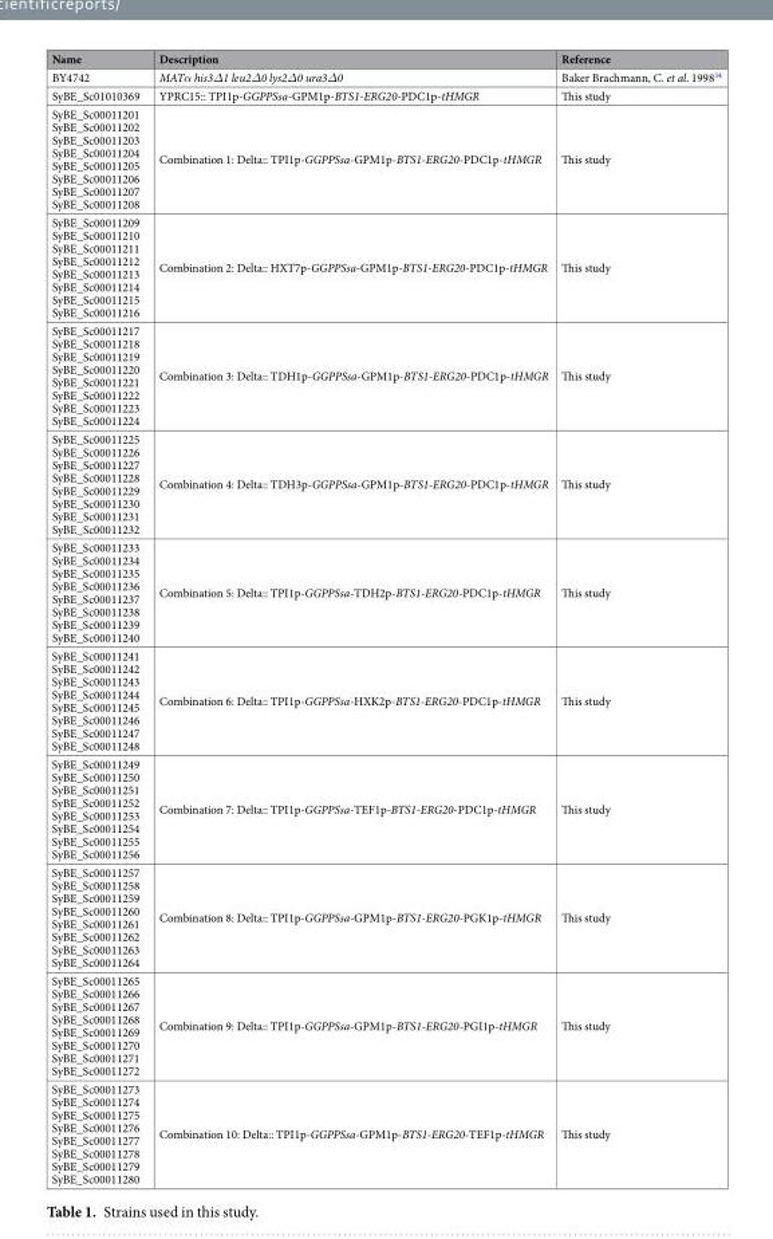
<table><thead><tr><td>Name</td><td>Description</td><td>Reference</td></tr></thead><tbody><tr><td>BY4742</td><td>MATα his3Δ1 leu2Δ0 lys2Δ0 ura3Δ0</td><td>Baker Brachmann, C. et al. 1998<sup>34</sup></td></tr><tr><td>SyBE_Sc01010369</td><td>YPRC15:: TPI1p-GGPPSsa-GPM1p-BTS1-ERG20-PDC1p-tHMGR</td><td>This study</td></tr><tr><td>SyBE_Sc00011201 SyBE_Sc00011202 SyBE_Sc00011203 SyBE_Sc00011204 SyBE_Sc00011205 SyBE_Sc00011206 SyBE_Sc00011207 SyBE_Sc00011208</td><td>Combination 1: Delta:: TPI1p-GGPPSsa-GPM1p-BTS1-ERG20-PDC1p-tHMGR</td><td>This study</td></tr><tr><td>SyBE_Sc00011209 SyBE_Sc00011210 SyBE_Sc00011211 SyBE_Sc00011212 SyBE_Sc00011213 SyBE_Sc00011214 SyBE_Sc00011215 SyBE_Sc00011216</td><td>Combination 2: Delta:: HXT7p-GGPPSsa-GPM1p-BTS1-ERG20-PDC1p-tHMGR</td><td>This study</td></tr><tr><td>SyBE_Sc00011217 SyBE_Sc00011218 SyBE_Sc00011219 SyBE_Sc00011220 SyBE_Sc00011221 SyBE_Sc00011222 SyBE_Sc00011223 SyBE_Sc00011224</td><td>Combination 3: Delta:: TDH1p-GGPPSsa-GPM1p-BTS1-ERG20-PDC1p-tHMGR</td><td>This study</td></tr><tr><td>SyBE_Sc00011225 SyBE_Sc00011226 SyBE_Sc00011227 SyBE_Sc00011228 SyBE_Sc00011229 SyBE_Sc00011230 SyBE_Sc00011231 SyBE_Sc00011232</td><td>Combination 4: Delta:: TDH3p-GGPPSsa-GPM1p-BTS1-ERG20-PDC1p-tHMGR</td><td>This study</td></tr><tr><td>SyBE_Sc00011233 SyBE_Sc00011234 SyBE_Sc00011235 SyBE_Sc00011236 SyBE_Sc00011237 SyBE_Sc00011238 SyBE_Sc00011239 SyBE_Sc00011240</td><td>Combination 5: Delta:: TPI1p-GGPPSsa-TDH2p-BTS1-ERG20-PDC1p-tHMGR</td><td>This study</td></tr><tr><td>SyBE_Sc00011241 SyBE_Sc00011242 SyBE_Sc00011243 SyBE_Sc00011244 SyBE_Sc00011245 SyBE_Sc00011246 SyBE_Sc00011247 SyBE_Sc00011248</td><td>Combination 6: Delta:: TPI1p-GGPPSsa-HXK2p-BTS1-ERG20-PDC1p-tHMGR</td><td>This study</td></tr><tr><td>SyBE_Sc00011249 SyBE_Sc00011250 SyBE_Sc00011251 SyBE_Sc00011252 SyBE_Sc00011253 SyBE_Sc00011254 SyBE_Sc00011255 SyBE_Sc00011256</td><td>Combination 7: Delta:: TPI1p-GGPPSsa-TEF1p-BTS1-ERG20-PDC1p-tHMGR</td><td>This study</td></tr><tr><td>SyBE_Sc00011257 SyBE_Sc00011258 SyBE_Sc00011259 SyBE_Sc00011260 SyBE_Sc00011261 SyBE_Sc00011262 SyBE_Sc00011263 SyBE_Sc00011264</td><td>Combination 8: Delta:: TPI1p-GGPPSsa-GPM1p-BTS1-ERG20-PGK1p-tHMGR</td><td>This study</td></tr><tr><td>SyBE_Sc00011265 SyBE_Sc00011266 SyBE_Sc00011267 SyBE_Sc00011268 SyBE_Sc00011269 SyBE_Sc00011270 SyBE_Sc00011271 SyBE_Sc00011272</td><td>Combination 9: Delta:: TPI1p-GGPPSsa-GPM1p-BTS1-ERG20-PGI1p-tHMGR</td><td>This study</td></tr><tr><td>SyBE_Sc00011273 SyBE_Sc00011274 SyBE_Sc00011275 SyBE_Sc00011276 SyBE_Sc00011277 SyBE_Sc00011278 SyBE_Sc00011279 SyBE_Sc00011280</td><td>Combination 10: Delta:: TPI1p-GGPPSsa-GPM1p-BTS1-ERG20-TEF1p-tHMGR</td><td>This study</td></tr></tbody></table>